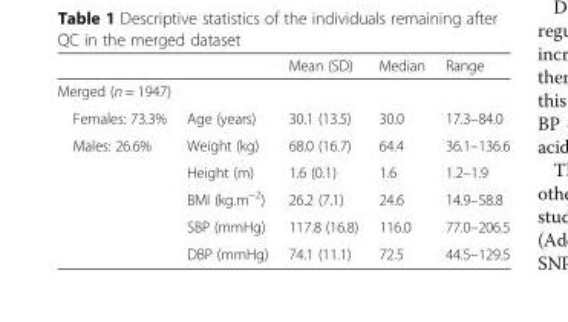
<table><thead><tr><td></td><td></td><td>Mean (SD)</td><td>Median</td><td>Range</td></tr></thead><tbody><tr><td colspan="5">Merged (n = 1947)</td></tr><tr><td>Females: 73.3%</td><td>Age (years)</td><td>30.1 (13.5)</td><td>30.0</td><td>17.3–84.0</td></tr><tr><td rowspan="5">Males: 26.6%</td><td>Weight (kg)</td><td>68.0 (16.7)</td><td>64.4</td><td>36.1–136.6</td></tr><tr><td>Height (m)</td><td>1.6 (0.1)</td><td>1.6</td><td>1.2–1.9</td></tr><tr><td>BMI (kg.m<sup>−2</sup>)</td><td>26.2 (7.1)</td><td>24.6</td><td>14.9–58.8</td></tr><tr><td>SBP (mmHg)</td><td>117.8 (16.8)</td><td>116.0</td><td>77.0–206.5</td></tr><tr><td>DBP (mmHg)</td><td>74.1 (11.1)</td><td>72.5</td><td>44.5–129.5</td></tr></tbody></table>